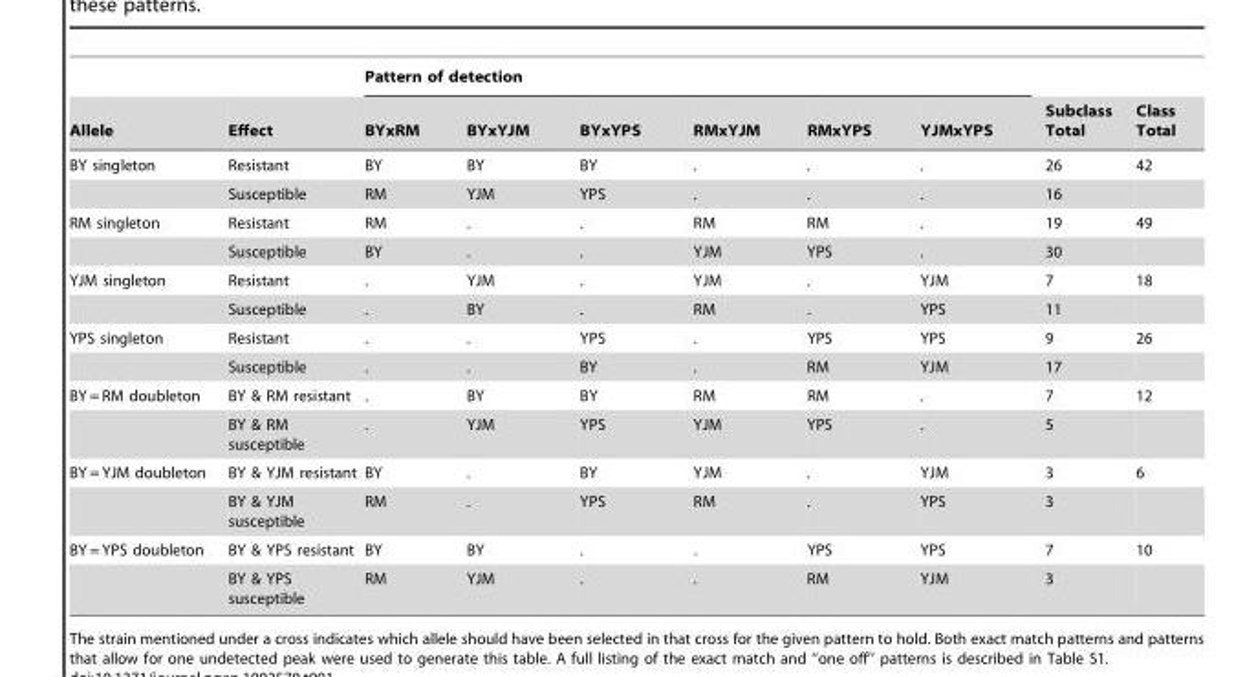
<table><thead><tr><td rowspan="2">Allele</td><td rowspan="2">Effect</td><td colspan="6">Pattern of detection</td><td rowspan="2">Subclass Total</td><td rowspan="2">Class Total</td></tr><tr><td>BYxRM</td><td>BYxYJM</td><td>BYxYPS</td><td>RMxYJM</td><td>RMxYPS</td><td>YJMxYPS</td></tr></thead><tbody><tr><td rowspan="2">BY singleton</td><td>Resistant</td><td>BY</td><td>BY</td><td>BY</td><td>.</td><td>.</td><td>.</td><td>26</td><td>42</td></tr><tr><td>Susceptible</td><td>RM</td><td>YJM</td><td>YPS</td><td>.</td><td>.</td><td>.</td><td>16</td><td></td></tr><tr><td rowspan="2">RM singleton</td><td>Resistant</td><td>RM</td><td>.</td><td>.</td><td>RM</td><td>RM</td><td>.</td><td>19</td><td>49</td></tr><tr><td>Susceptible</td><td>BY</td><td>.</td><td>.</td><td>YJM</td><td>YPS</td><td>.</td><td>30</td><td></td></tr><tr><td rowspan="2">YJM singleton</td><td>Resistant</td><td>.</td><td>YJM</td><td>.</td><td>YJM</td><td>.</td><td>YJM</td><td>7</td><td>18</td></tr><tr><td>Susceptible</td><td>.</td><td>BY</td><td>.</td><td>RM</td><td>.</td><td>YPS</td><td>11</td><td></td></tr><tr><td rowspan="2">YPS singleton</td><td>Resistant</td><td>.</td><td>.</td><td>YPS</td><td>.</td><td>YPS</td><td>YPS</td><td>9</td><td>26</td></tr><tr><td>Susceptible</td><td>.</td><td>.</td><td>BY</td><td>.</td><td>RM</td><td>YJM</td><td>17</td><td></td></tr><tr><td rowspan="2">BY = RM doubleton</td><td>BY &amp; RM resistant</td><td>.</td><td>BY</td><td>BY</td><td>RM</td><td>RM</td><td>.</td><td>7</td><td>12</td></tr><tr><td>BY &amp; RM susceptible</td><td>.</td><td>YJM</td><td>YPS</td><td>YJM</td><td>YPS</td><td>.</td><td>5</td><td></td></tr><tr><td rowspan="2">BY = YJM doubleton</td><td>BY &amp; YJM resistant</td><td>BY</td><td>.</td><td>BY</td><td>YJM</td><td>.</td><td>YJM</td><td>3</td><td>6</td></tr><tr><td>BY &amp; YJM susceptible</td><td>RM</td><td>.</td><td>YPS</td><td>RM</td><td>.</td><td>YPS</td><td>3</td><td></td></tr><tr><td rowspan="2">BY = YPS doubleton</td><td>BY &amp; YPS resistant</td><td>BY</td><td>BY</td><td>.</td><td>.</td><td>YPS</td><td>YPS</td><td>7</td><td>10</td></tr><tr><td>BY &amp; YPS susceptible</td><td>RM</td><td>YJM</td><td>.</td><td>.</td><td>RM</td><td>YJM</td><td>3</td><td></td></tr></tbody></table>